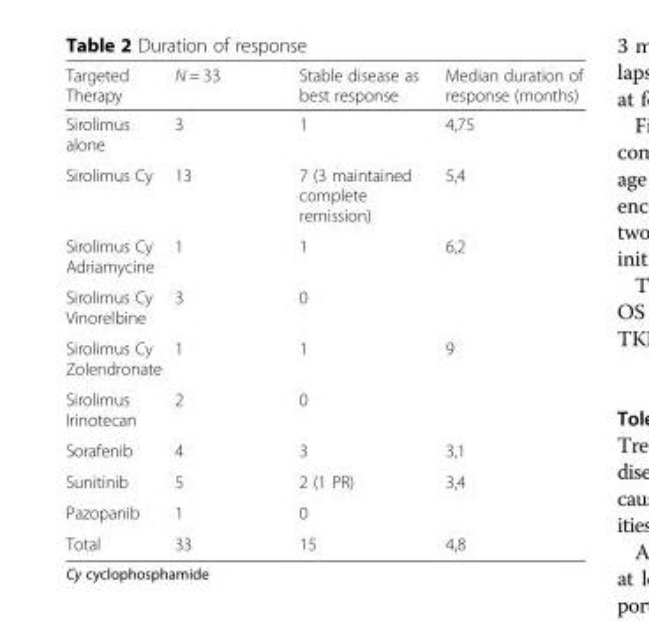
<table><thead><tr><td>Targeted Therapy</td><td>N = 33</td><td>Stable disease as best response</td><td>Median duration of response (months)</td></tr></thead><tbody><tr><td>Sirolimus alone</td><td>3</td><td>1</td><td>4,75</td></tr><tr><td>Sirolimus Cy</td><td>13</td><td>7 (3 maintained complete remission)</td><td>5,4</td></tr><tr><td>Sirolimus Cy Adriamycine</td><td>1</td><td>1</td><td>6,2</td></tr><tr><td>Sirolimus Cy Vinorelbine</td><td>3</td><td>0</td><td></td></tr><tr><td>Sirolimus Cy Zolendronate</td><td>1</td><td>1</td><td>9</td></tr><tr><td>Sirolimus Irinotecan</td><td>2</td><td>0</td><td></td></tr><tr><td>Sorafenib</td><td>4</td><td>3</td><td>3,1</td></tr><tr><td>Sunitinib</td><td>5</td><td>2 (1 PR)</td><td>3,4</td></tr><tr><td>Pazopanib</td><td>1</td><td>0</td><td></td></tr><tr><td>Total</td><td>33</td><td>15</td><td>4,8</td></tr></tbody></table>